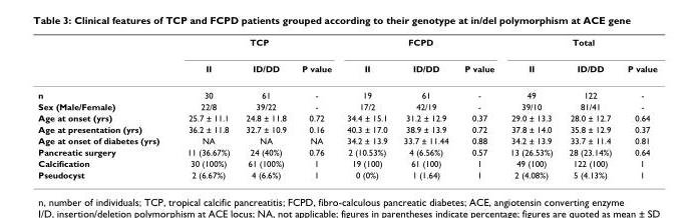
<table><thead><tr><td rowspan="2"></td><td colspan="3">TCP</td><td colspan="3">FCPD</td><td colspan="3">Total</td></tr><tr><td>II</td><td>ID/DD</td><td>P value</td><td>II</td><td>ID/DD</td><td>P value</td><td>II</td><td>ID/DD</td><td>P value</td></tr></thead><tbody><tr><td>n</td><td>30</td><td>61</td><td>-</td><td>19</td><td>61</td><td>-</td><td>49</td><td>122</td><td>-</td></tr><tr><td>Sex (Male/Female)</td><td>22/8</td><td>39/22</td><td>-</td><td>17/2</td><td>42/19</td><td>-</td><td>39/10</td><td>81/41</td><td>-</td></tr><tr><td>Age at onset (yrs)</td><td>25.7 ± 11.1</td><td>24.8 ± 11.8</td><td>0.72</td><td>34.4 ± 15.1</td><td>31.2 ± 12.9</td><td>0.37</td><td>29.0 ± 13.3</td><td>28.0 ± 12.7</td><td>0.64</td></tr><tr><td>Age at presentation (yrs)</td><td>36.2 ± 11.8</td><td>32.7 ± 10.9</td><td>0.16</td><td>40.3 ± 17.0</td><td>38.9 ± 13.9</td><td>0.72</td><td>37.8 ± 14.0</td><td>35.8 ± 12.9</td><td>0.37</td></tr><tr><td>Age at onset of diabetes (yrs)</td><td>NA</td><td>NA</td><td>NA</td><td>34.2 ± 13.9</td><td>33.7 ± 11.44</td><td>0.88</td><td>34.2 ± 13.9</td><td>33.7 ± 11.4</td><td>0.81</td></tr><tr><td>Pancreatic surgery</td><td>11 (36.67%)</td><td>24 (40%)</td><td>0.76</td><td>2 (10.53%)</td><td>4 (6.56%)</td><td>0.57</td><td>13 (26.53%)</td><td>28 (23.14%)</td><td>0.64</td></tr><tr><td>Calcification</td><td>30 (100%)</td><td>61 (100%)</td><td>1</td><td>19 (100)</td><td>61 (100)</td><td>1</td><td>49 (100)</td><td>122 (100)</td><td>1</td></tr><tr><td>Pseudocyst</td><td>2 (6.67%)</td><td>4 (6.6%)</td><td>1</td><td>0 (0%)</td><td>1 (1.64)</td><td>1</td><td>2 (4.08%)</td><td>5 (4.13%)</td><td>1</td></tr></tbody></table>